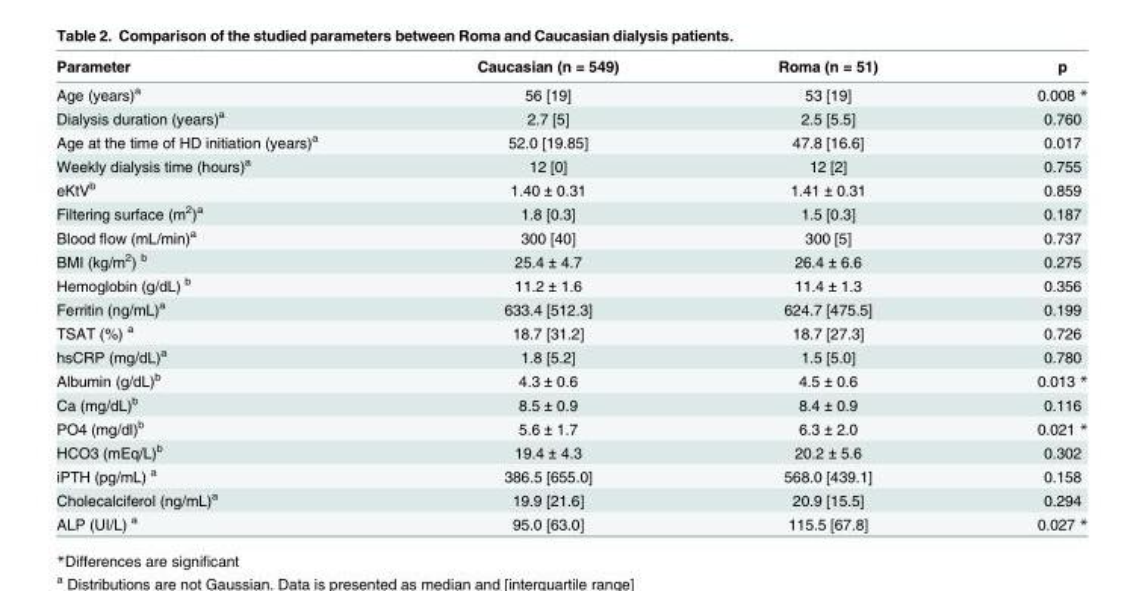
<table><thead><tr><td>Parameter</td><td>Caucasian (n = 549)</td><td>Roma (n = 51)</td><td>p</td></tr></thead><tbody><tr><td>Age (years)<sup>a</sup></td><td>56 [19]</td><td>53 [19]</td><td>0.008 *</td></tr><tr><td>Dialysis duration (years)<sup>a</sup></td><td>2.7 [5]</td><td>2.5 [5.5]</td><td>0.760</td></tr><tr><td>Age at the time of HD initiation (years)<sup>a</sup></td><td>52.0 [19.85]</td><td>47.8 [16.6]</td><td>0.017</td></tr><tr><td>Weekly dialysis time (hours)<sup>a</sup></td><td>12 [0]</td><td>12 [2]</td><td>0.755</td></tr><tr><td>eKtV<sup>b</sup></td><td>1.40 ± 0.31</td><td>1.41 ± 0.31</td><td>0.859</td></tr><tr><td>Filtering surface (m<sup>2</sup>)<sup>a</sup></td><td>1.8 [0.3]</td><td>1.5 [0.3]</td><td>0.187</td></tr><tr><td>Blood flow (mL/min)<sup>a</sup></td><td>300 [40]</td><td>300 [5]</td><td>0.737</td></tr><tr><td>BMI (kg/m<sup>2</sup>) <sup>b</sup></td><td>25.4 ± 4.7</td><td>26.4 ± 6.6</td><td>0.275</td></tr><tr><td>Hemoglobin (g/dL) <sup>b</sup></td><td>11.2 ± 1.6</td><td>11.4 ± 1.3</td><td>0.356</td></tr><tr><td>Ferritin (ng/mL)<sup>a</sup></td><td>633.4 [512.3]</td><td>624.7 [475.5]</td><td>0.199</td></tr><tr><td>TSAT (%) <sup>a</sup></td><td>18.7 [31.2]</td><td>18.7 [27.3]</td><td>0.726</td></tr><tr><td>hsCRP (mg/dL)<sup>a</sup></td><td>1.8 [5.2]</td><td>1.5 [5.0]</td><td>0.780</td></tr><tr><td>Albumin (g/dL)<sup>b</sup></td><td>4.3 ± 0.6</td><td>4.5 ± 0.6</td><td>0.013 *</td></tr><tr><td>Ca (mg/dL)<sup>b</sup></td><td>8.5 ± 0.9</td><td>8.4 ± 0.9</td><td>0.116</td></tr><tr><td>PO4 (mg/dl)<sup>b</sup></td><td>5.6 ± 1.7</td><td>6.3 ± 2.0</td><td>0.021 *</td></tr><tr><td>HCO3 (mEq/L)<sup>b</sup></td><td>19.4 ± 4.3</td><td>20.2 ± 5.6</td><td>0.302</td></tr><tr><td>iPTH (pg/mL) <sup>a</sup></td><td>386.5 [655.0]</td><td>568.0 [439.1]</td><td>0.158</td></tr><tr><td>Cholecalciferol (ng/mL)<sup>a</sup></td><td>19.9 [21.6]</td><td>20.9 [15.5]</td><td>0.294</td></tr><tr><td>ALP (UI/L) <sup>a</sup></td><td>95.0 [63.0]</td><td>115.5 [67.8]</td><td>0.027 *</td></tr></tbody></table>